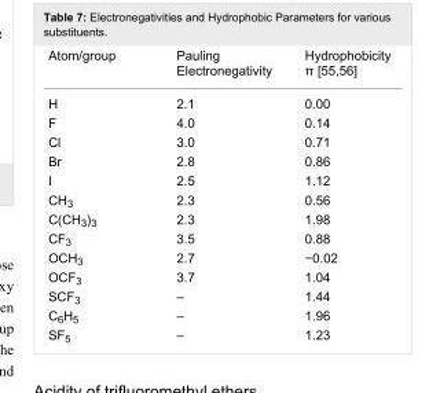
<table><tbody><tr><td>Atom/group</td><td>Pauling Electronegativity</td><td>Hydrophobicity π [55–56]</td></tr><tr><td>H</td><td>2.1</td><td>0.00</td></tr><tr><td>F</td><td>4.0</td><td>0.14</td></tr><tr><td>Cl</td><td>3.0</td><td>0.71</td></tr><tr><td>Br</td><td>2.8</td><td>0.86</td></tr><tr><td>I</td><td>2.5</td><td>1.12</td></tr><tr><td>CH<sub>3</sub></td><td>2.3</td><td>0.56</td></tr><tr><td>C(CH<sub>3</sub>)<sub>3</sub></td><td>2.3</td><td>1.98</td></tr><tr><td>CF<sub>3</sub></td><td>3.5</td><td>0.88</td></tr><tr><td>OCH<sub>3</sub></td><td>2.7</td><td>−0.02</td></tr><tr><td>OCF<sub>3</sub></td><td>3.7</td><td>1.04</td></tr><tr><td>SCF<sub>3</sub></td><td>–</td><td>1.44</td></tr><tr><td>C<sub>6</sub>H<sub>5</sub></td><td>–</td><td>1.96</td></tr><tr><td>SF<sub>5</sub></td><td>–</td><td>1.23</td></tr></tbody></table>